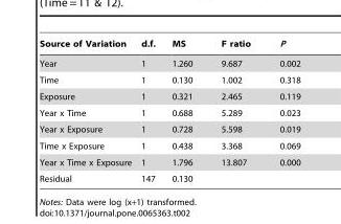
<table><thead><tr><td>Source of Variation</td><td>d.f.</td><td>MS</td><td>F ratio</td><td>P</td></tr></thead><tbody><tr><td>Year</td><td>1</td><td>1.260</td><td>9.687</td><td>0.002</td></tr><tr><td>Time</td><td>1</td><td>0.130</td><td>1.002</td><td>0.318</td></tr><tr><td>Exposure</td><td>1</td><td>0.321</td><td>2.465</td><td>0.119</td></tr><tr><td>Year x Time</td><td>1</td><td>0.688</td><td>5.289</td><td>0.023</td></tr><tr><td>Year x Exposure</td><td>1</td><td>0.728</td><td>5.598</td><td>0.019</td></tr><tr><td>Time x Exposure</td><td>1</td><td>0.438</td><td>3.368</td><td>0.069</td></tr><tr><td>Year x Time x Exposure</td><td>1</td><td>1.796</td><td>13.807</td><td>0.000</td></tr><tr><td>Residual</td><td>147</td><td>0.130</td><td></td><td></td></tr></tbody></table>